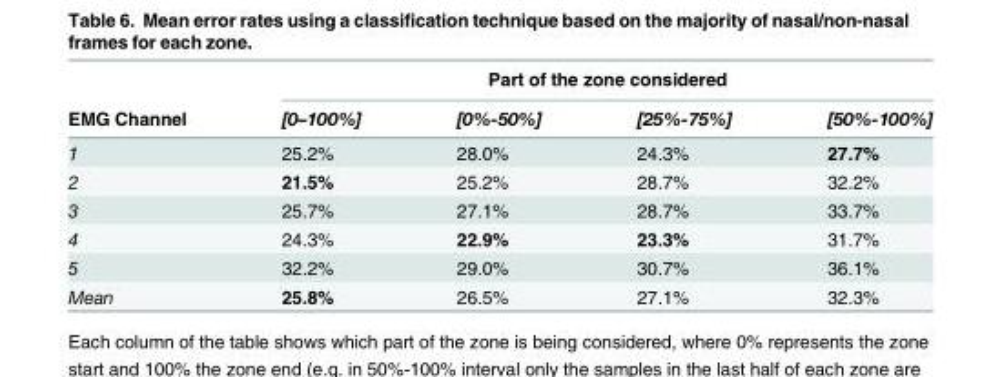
<table><thead><tr><td rowspan="2">EMG Channel</td><td colspan="4">Part of the zone considered</td></tr><tr><td>[0–100%]</td><td>[0%-50%]</td><td>[25%-75%]</td><td>[50%-100%]</td></tr></thead><tbody><tr><td>1</td><td>25.2%</td><td>28.0%</td><td>24.3%</td><td>27.7%</td></tr><tr><td>2</td><td>21.5%</td><td>25.2%</td><td>28.7%</td><td>32.2%</td></tr><tr><td>3</td><td>25.7%</td><td>27.1%</td><td>28.7%</td><td>33.7%</td></tr><tr><td>4</td><td>24.3%</td><td>22.9%</td><td>23.3%</td><td>31.7%</td></tr><tr><td>5</td><td>32.2%</td><td>29.0%</td><td>30.7%</td><td>36.1%</td></tr><tr><td>Mean</td><td>25.8%</td><td>26.5%</td><td>27.1%</td><td>32.3%</td></tr></tbody></table>